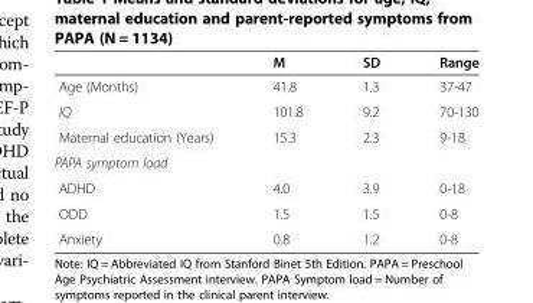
<table><thead><tr><td></td><td>M</td><td>SD</td><td>Range</td></tr></thead><tbody><tr><td>Age (Months)</td><td>41.8</td><td>1.3</td><td>37-47</td></tr><tr><td>IQ</td><td>101.8</td><td>9.2</td><td>70-130</td></tr><tr><td>Maternal education (Years)</td><td>15.3</td><td>2.3</td><td>9-18</td></tr><tr><td colspan="4">PAPA symptom load</td></tr><tr><td>ADHD</td><td>4.0</td><td>3.9</td><td>0-18</td></tr><tr><td>ODD</td><td>1.5</td><td>1.5</td><td>0-8</td></tr><tr><td>Anxiety</td><td>0.8</td><td>1.2</td><td>0-8</td></tr></tbody></table>